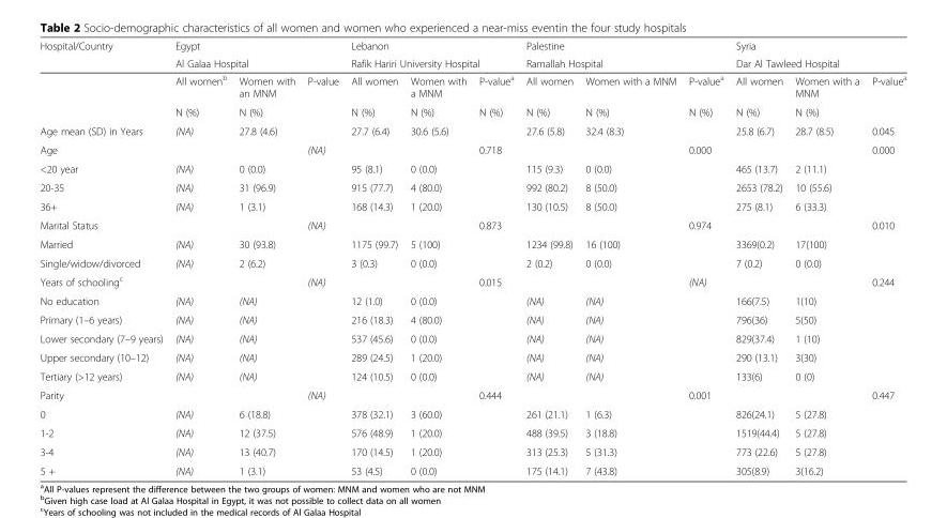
<table><thead><tr><td rowspan="3">Hospital/Country</td><td rowspan="2" colspan="3">Egypt Al Galaa Hospital</td><td rowspan="2" colspan="3">Lebanon Rafik Hariri University Hospital</td><td rowspan="2" colspan="3">Palestine Ramallah Hospital</td><td rowspan="2" colspan="3">Syria Dar Al Tawleed Hospital</td></tr><tr></tr><tr><td>All women<sup>b</sup></td><td>Women with an MNM</td><td>P-value</td><td>All women</td><td>Women with a MNM</td><td>P-value<sup>a</sup></td><td>All women</td><td>Women with a MNM</td><td>P-value<sup>a</sup></td><td>All women</td><td>Women with a MNM</td><td>P-value<sup>a</sup></td></tr></thead><tbody><tr><td></td><td>N (%)</td><td>N (%)</td><td></td><td>N (%)</td><td>N (%)</td><td>N (%)</td><td>N (%)</td><td>N (%)</td><td>N (%)</td><td>N (%)</td><td>N (%)</td><td></td></tr><tr><td>Age mean (SD) in Years</td><td>(NA)</td><td>27.8 (4.6)</td><td></td><td>27.7 (6.4)</td><td>30.6 (5.6)</td><td></td><td>27.6 (5.8)</td><td>32.4 (8.3)</td><td></td><td>25.8 (6.7)</td><td>28.7 (8.5)</td><td>0.045</td></tr><tr><td>Age</td><td></td><td></td><td>(NA)</td><td></td><td></td><td>0.718</td><td></td><td></td><td>0.000</td><td></td><td></td><td>0.000</td></tr><tr><td>&lt;20 year</td><td>(NA)</td><td>0 (0.0)</td><td></td><td>95 (8.1)</td><td>0 (0.0)</td><td></td><td>115 (9.3)</td><td>0 (0.0)</td><td></td><td>465 (13.7)</td><td>2 (11.1)</td><td></td></tr><tr><td>20-35</td><td>(NA)</td><td>31 (96.9)</td><td></td><td>915 (77.7)</td><td>4 (80.0)</td><td></td><td>992 (80.2)</td><td>8 (50.0)</td><td></td><td>2653 (78.2)</td><td>10 (55.6)</td><td></td></tr><tr><td>36+</td><td>(NA)</td><td>1 (3.1)</td><td></td><td>168 (14.3)</td><td>1 (20.0)</td><td></td><td>130 (10.5)</td><td>8 (50.0)</td><td></td><td>275 (8.1)</td><td>6 (33.3)</td><td></td></tr><tr><td>Marital Status</td><td></td><td></td><td>(NA)</td><td></td><td></td><td>0.873</td><td></td><td></td><td>0.974</td><td></td><td></td><td>0.010</td></tr><tr><td>Married</td><td>(NA)</td><td>30 (93.8)</td><td></td><td>1175 (99.7)</td><td>5 (100)</td><td></td><td>1234 (99.8)</td><td>16 (100)</td><td></td><td>3369(0.2)</td><td>17(100)</td><td></td></tr><tr><td>Single/widow/divorced</td><td>(NA)</td><td>2 (6.2)</td><td></td><td>3 (0.3)</td><td>0 (0.0)</td><td></td><td>2 (0.2)</td><td>0 (0.0)</td><td></td><td>7 (0.2)</td><td>0 (0.0)</td><td></td></tr><tr><td>Years of schooling<sup>c</sup></td><td></td><td></td><td>(NA)</td><td></td><td></td><td>0.015</td><td></td><td></td><td>(NA)</td><td></td><td></td><td>0.244</td></tr><tr><td>No education</td><td>(NA)</td><td>(NA)</td><td></td><td>12 (1.0)</td><td>0 (0.0)</td><td></td><td>(NA)</td><td>(NA)</td><td></td><td>166(7.5)</td><td>1(10)</td><td></td></tr><tr><td>Primary (1–6 years)</td><td>(NA)</td><td>(NA)</td><td></td><td>216 (18.3)</td><td>4 (80.0)</td><td></td><td>(NA)</td><td>(NA)</td><td></td><td>796(36)</td><td>5(50)</td><td></td></tr><tr><td>Lower secondary (7–9 years)</td><td>(NA)</td><td>(NA)</td><td></td><td>537 (45.6)</td><td>0 (0.0)</td><td></td><td>(NA)</td><td>(NA)</td><td></td><td>829(37.4)</td><td>1 (10)</td><td></td></tr><tr><td>Upper secondary (10–12)</td><td>(NA)</td><td>(NA)</td><td></td><td>289 (24.5)</td><td>1 (20.0)</td><td></td><td>(NA)</td><td>(NA)</td><td></td><td>290 (13.1)</td><td>3(30)</td><td></td></tr><tr><td>Tertiary (&gt;12 years)</td><td>(NA)</td><td>(NA)</td><td></td><td>124 (10.5)</td><td>0 (0.0)</td><td></td><td>(NA)</td><td>(NA)</td><td></td><td>133(6)</td><td>0 (0)</td><td></td></tr><tr><td>Parity</td><td></td><td></td><td>(NA)</td><td></td><td></td><td>0.444</td><td></td><td></td><td>0.001</td><td></td><td></td><td>0.447</td></tr><tr><td>0</td><td>(NA)</td><td>6 (18.8)</td><td></td><td>378 (32.1)</td><td>3 (60.0)</td><td></td><td>261 (21.1)</td><td>1 (6.3)</td><td></td><td>826(24.1)</td><td>5 (27.8)</td><td></td></tr><tr><td>1-2</td><td>(NA)</td><td>12 (37.5)</td><td></td><td>576 (48.9)</td><td>1 (20.0)</td><td></td><td>488 (39.5)</td><td>3 (18.8)</td><td></td><td>1519(44.4)</td><td>5 (27.8)</td><td></td></tr><tr><td>3-4</td><td>(NA)</td><td>13 (40.7)</td><td></td><td>170 (14.5)</td><td>1 (20.0)</td><td></td><td>313 (25.3)</td><td>5 (31.3)</td><td></td><td>773 (22.6)</td><td>5 (27.8)</td><td></td></tr><tr><td>5 +</td><td>(NA)</td><td>1 (3.1)</td><td></td><td>53 (4.5)</td><td>0 (0.0)</td><td></td><td>175 (14.1)</td><td>7 (43.8)</td><td></td><td>305(8.9)</td><td>3(16.2)</td><td></td></tr></tbody></table>